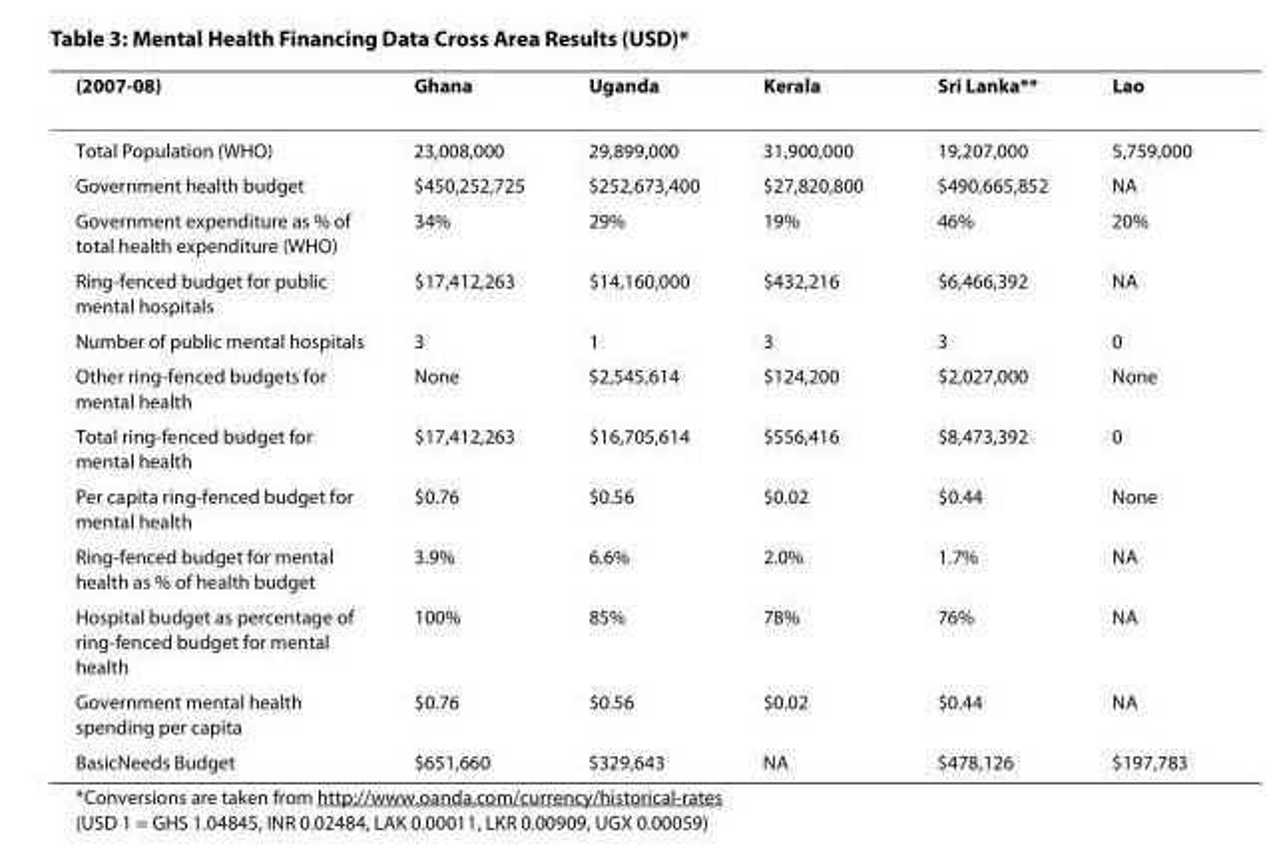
<table><thead><tr><td>(2007-08)</td><td>Ghana</td><td>Uganda</td><td>Kerala</td><td>Sri Lanka**</td><td>Lao</td></tr></thead><tbody><tr><td>Total Population (WHO)</td><td>23,008,000</td><td>29,899,000</td><td>31,900,000</td><td>19,207,000</td><td>5,759,000</td></tr><tr><td>Government health budget</td><td>$450,252,725</td><td>$252,673,400</td><td>$27,820,800</td><td>$490,665,852</td><td>NA</td></tr><tr><td>Government expenditure as % of total health expenditure (WHO)</td><td>34%</td><td>29%</td><td>19%</td><td>46%</td><td>20%</td></tr><tr><td>Ring-fenced budget for public mental hospitals</td><td>$17,412,263</td><td>$14,160,000</td><td>$432,216</td><td>$6,466,392</td><td>NA</td></tr><tr><td>Number of public mental hospitals</td><td>3</td><td>1</td><td>3</td><td>3</td><td>0</td></tr><tr><td>Other ring-fenced budgets for mental health</td><td>None</td><td>$2,545,614</td><td>$124,200</td><td>$2,027,000</td><td>None</td></tr><tr><td>Total ring-fenced budget for mental health</td><td>$17,412,263</td><td>$16,705,614</td><td>$556,416</td><td>$8,473,392</td><td>0</td></tr><tr><td>Per capita ring-fenced budget for mental health</td><td>$0.76</td><td>$0.56</td><td>$0.02</td><td>$0.44</td><td>None</td></tr><tr><td>Ring-fenced budget for mental health as % of health budget</td><td>3.9%</td><td>6.6%</td><td>2.0%</td><td>1.7%</td><td>NA</td></tr><tr><td>Hospital budget as percentage of ring-fenced budget for mental health</td><td>100%</td><td>85%</td><td>78%</td><td>76%</td><td>NA</td></tr><tr><td>Government mental health spending per capita</td><td>$0.76</td><td>$0.56</td><td>$0.02</td><td>$0.44</td><td>NA</td></tr><tr><td>BasicNeeds Budget</td><td>$651,660</td><td>$329,643</td><td>NA</td><td>$478,126</td><td>$197,783</td></tr></tbody></table>